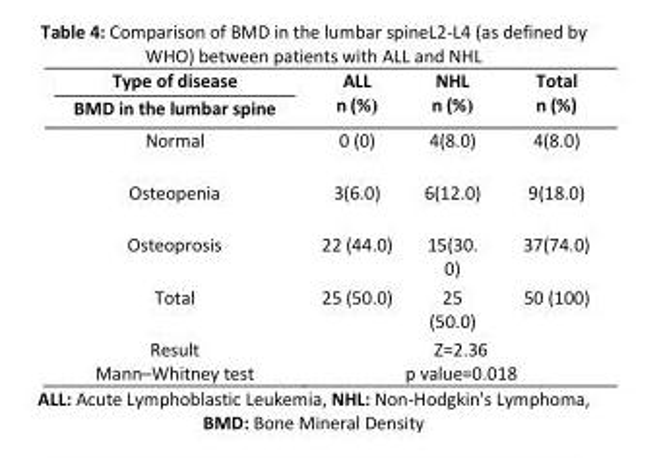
<table><thead><tr><td rowspan="2">Type of disease BMD in the lumbar spine</td><td rowspan="2">ALL n ( % )</td><td rowspan="2">NHL n ( % )</td><td rowspan="2">Total n ( % )</td></tr><tr></tr></thead><tbody><tr><td>Normal</td><td>0 (0)</td><td>4(8.0)</td><td>4(8.0)</td></tr><tr><td>Osteopenia</td><td>3(6.0)</td><td>6(12.0)</td><td>9(18.0)</td></tr><tr><td>Osteoprosis</td><td>22 (44.0)</td><td>15(30. 0)</td><td>37(74.0)</td></tr><tr><td>Total</td><td>25 (50.0)</td><td>25 (50.0)</td><td>50 (100)</td></tr><tr><td>Result Mann–Whitney test</td><td colspan="3">Z=2.36 p value=0.018</td></tr></tbody></table>